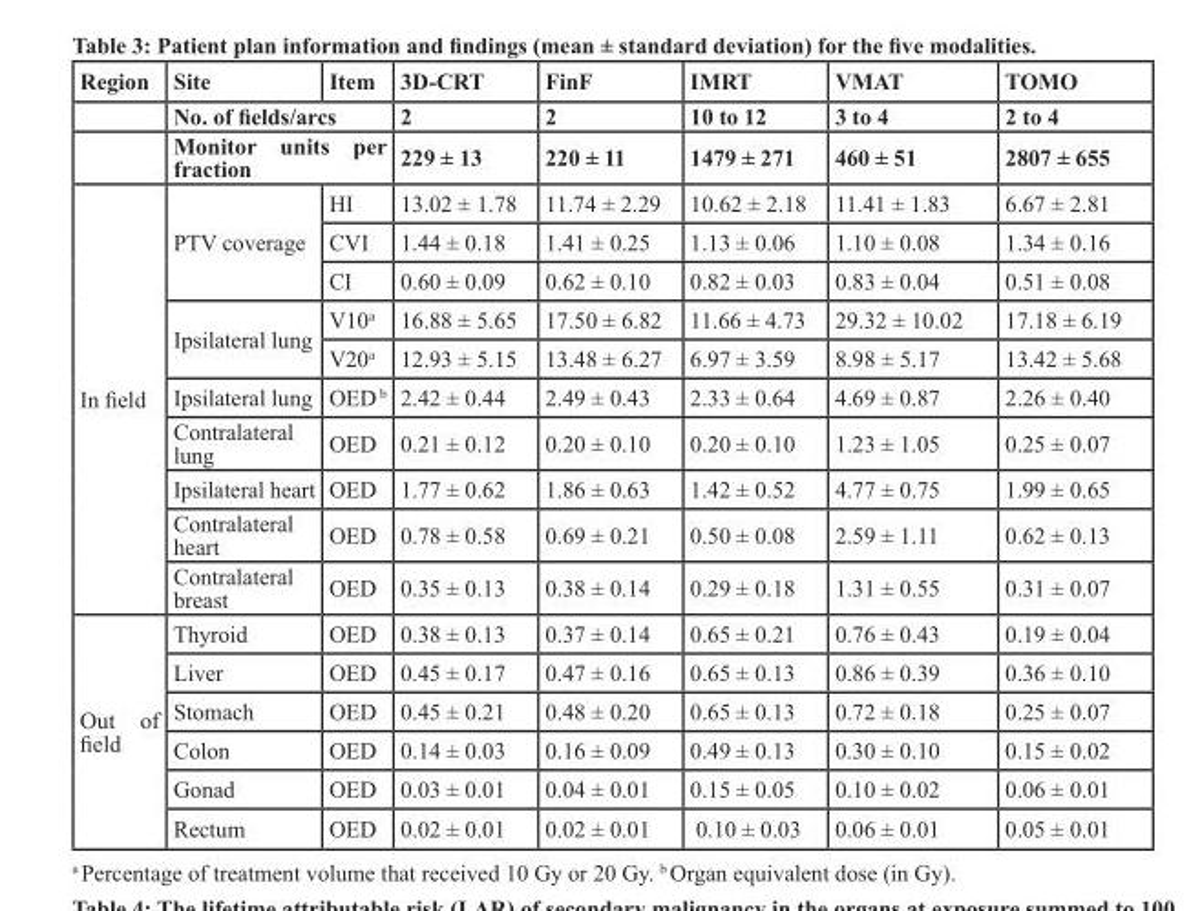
<table><thead><tr><td rowspan="3">Region</td><td>Site</td><td>Item</td><td rowspan="3">3D-CRT 2 229 ± 13</td><td rowspan="3">FinF 2 220 ± 11</td><td rowspan="3">IMRT 10 to 12 1479 ± 271</td><td rowspan="3">VMAT 3 to 4 460 ± 51</td><td rowspan="3">TOMO 2 to 4 2807 ± 655</td></tr><tr><td rowspan="2" colspan="2">No. of fields/arcs Monitor units per fraction</td></tr><tr></tr></thead><tbody><tr><td rowspan="10">In field</td><td rowspan="3">PTV coverage</td><td>HI</td><td>13.02 ± 1.78</td><td>11.74 ± 2.29</td><td>10.62 ± 2.18</td><td>11.41 ± 1.83</td><td>6.67 ± 2.81</td></tr><tr><td>CVI</td><td>1.44 ± 0.18</td><td>1.41 ± 0.25</td><td>1.13 ± 0.06</td><td>1.10 ± 0.08</td><td>1.34 ± 0.16</td></tr><tr><td>CI</td><td>0.60 ± 0.09</td><td>0.62 ± 0.10</td><td>0.82 ± 0.03</td><td>0.83 ± 0.04</td><td>0.51 ± 0.08</td></tr><tr><td rowspan="2">Ipsilateral lung</td><td>V10<sup>a</sup></td><td>16.88 ± 5.65</td><td>17.50 ± 6.82</td><td>11.66 ± 4.73</td><td>29.32 ± 10.02</td><td>17.18 ± 6.19</td></tr><tr><td>V20<sup>a</sup></td><td>12.93 ± 5.15</td><td>13.48 ± 6.27</td><td>6.97 ± 3.59</td><td>8.98 ± 5.17</td><td>13.42 ± 5.68</td></tr><tr><td>Ipsilateral lung</td><td>OED <sup>b</sup></td><td>2.42 ± 0.44</td><td>2.49 ± 0.43</td><td>2.33 ± 0.64</td><td>4.69 ± 0.87</td><td>2.26 ± 0.40</td></tr><tr><td>Contralateral lung</td><td>OED</td><td>0.21 ± 0.12</td><td>0.20 ± 0.10</td><td>0.20 ± 0.10</td><td>1.23 ± 1.05</td><td>0.25 ± 0.07</td></tr><tr><td>Ipsilateral heart</td><td>OED</td><td>1.77 ± 0.62</td><td>1.86 ± 0.63</td><td>1.42 ± 0.52</td><td>4.77 ± 0.75</td><td>1.99 ± 0.65</td></tr><tr><td>Contralateral heart</td><td>OED</td><td>0.78 ± 0.58</td><td>0.69 ± 0.21</td><td>0.50 ± 0.08</td><td>2.59 ± 1.11</td><td>0.62 ± 0.13</td></tr><tr><td>Contralateral breast</td><td>OED</td><td>0.35 ± 0.13</td><td>0.38 ± 0.14</td><td>0.29 ± 0.18</td><td>1.31 ± 0.55</td><td>0.31 ± 0.07</td></tr><tr><td rowspan="6">Out of field</td><td>Thyroid</td><td>OED</td><td>0.38 ± 0.13</td><td>0.37 ± 0.14</td><td>0.65 ± 0.21</td><td>0.76 ± 0.43</td><td>0.19 ± 0.04</td></tr><tr><td>Liver</td><td>OED</td><td>0.45 ± 0.17</td><td>0.47 ± 0.16</td><td>0.65 ± 0.13</td><td>0.86 ± 0.39</td><td>0.36 ± 0.10</td></tr><tr><td>Stomach</td><td>OED</td><td>0.45 ± 0.21</td><td>0.48 ± 0.20</td><td>0.65 ± 0.13</td><td>0.72 ± 0.18</td><td>0.25 ± 0.07</td></tr><tr><td>Colon</td><td>OED</td><td>0.14 ± 0.03</td><td>0.16 ± 0.09</td><td>0.49 ± 0.13</td><td>0.30 ± 0.10</td><td>0.15 ± 0.02</td></tr><tr><td>Gonad</td><td>OED</td><td>0.03 ± 0.01</td><td>0.04 ± 0.01</td><td>0.15 ± 0.05</td><td>0.10 ± 0.02</td><td>0.06 ± 0.01</td></tr><tr><td>Rectum</td><td>OED</td><td>0.02 ± 0.01</td><td>0.02 ± 0.01</td><td>0.10 ± 0.03</td><td>0.06 ± 0.01</td><td>0.05 ± 0.01</td></tr></tbody></table>